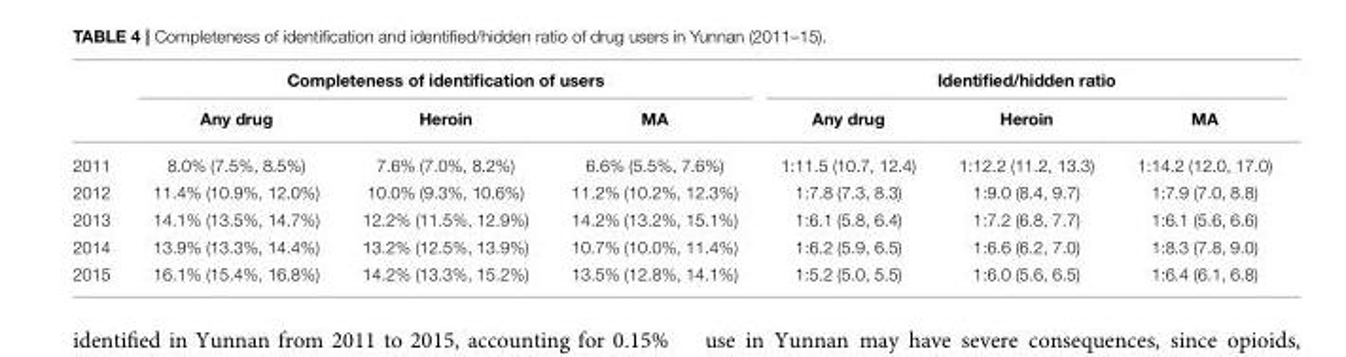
<table><thead><tr><td rowspan="2"></td><td colspan="3">Completeness of identification of users</td><td colspan="3">Identified/hidden ratio</td></tr><tr><td>Any drug</td><td>Heroin</td><td>MA</td><td>Any drug</td><td>Heroin</td><td>MA</td></tr></thead><tbody><tr><td>2011</td><td>8.0% (7.5%, 8.5%)</td><td>7.6% (7.0%, 8.2%)</td><td>6.6% (5.5%, 7.6%)</td><td>1:11.5 (10.7, 12.4)</td><td>1:12.2 (11.2, 13.3)</td><td>1:14.2 (12.0, 17.0)</td></tr><tr><td>2012</td><td>11.4% (10.9%, 12.0%)</td><td>10.0% (9.3%, 10.6%)</td><td>11.2% (10.2%, 12.3%)</td><td>1:7.8 (7.3, 8.3)</td><td>1:9.0 (8.4, 9.7)</td><td>1:7.9 (7.0, 8.8)</td></tr><tr><td>2013</td><td>14.1% (13.5%, 14.7%)</td><td>12.2% (11.5%, 12.9%)</td><td>14.2% (13.2%, 15.1%)</td><td>1:6.1 (5.8, 6.4)</td><td>1:7.2 (6.8, 7.7)</td><td>1:6.1 (5.6, 6.6)</td></tr><tr><td>2014</td><td>13.9% (13.3%, 14.4%)</td><td>13.2% (12.5%, 13.9%)</td><td>10.7% (10.0%, 11.4%)</td><td>1:6.2 (5.9, 6.5)</td><td>1:6.6 (6.2, 7.0)</td><td>1:8.3 (7.8, 9.0)</td></tr><tr><td>2015</td><td>16.1% (15.4%, 16.8%)</td><td>14.2% (13.3%, 15.2%)</td><td>13.5% (12.8%, 14.1%)</td><td>1:5.2 (5.0, 5.5)</td><td>1:6.0 (5.6, 6.5)</td><td>1:6.4 (6.1, 6.8)</td></tr></tbody></table>